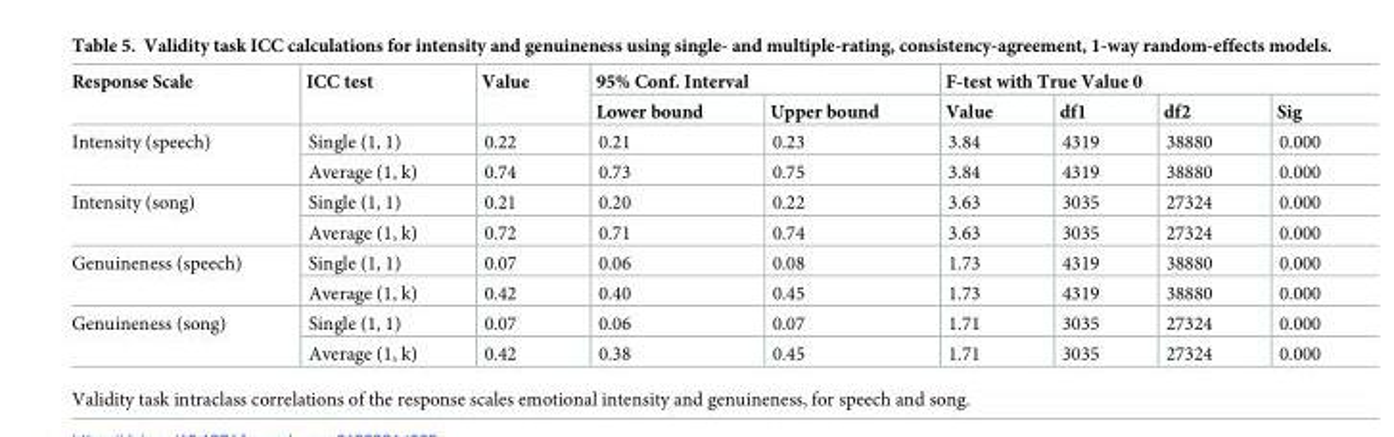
<table><thead><tr><td rowspan="2">Response Scale</td><td rowspan="2">ICC test</td><td rowspan="2">Value</td><td colspan="2">95% Conf. Interval</td><td colspan="4">F-test with True Value 0</td></tr><tr><td>Lower bound</td><td>Upper bound</td><td>Value</td><td>df1</td><td>df2</td><td>Sig</td></tr></thead><tbody><tr><td rowspan="2">Intensity (speech)</td><td>Single (1, 1)</td><td>0.22</td><td>0.21</td><td>0.23</td><td>3.84</td><td>4319</td><td>38880</td><td>0.000</td></tr><tr><td>Average (1, k)</td><td>0.74</td><td>0.73</td><td>0.75</td><td>3.84</td><td>4319</td><td>38880</td><td>0.000</td></tr><tr><td rowspan="2">Intensity (song)</td><td>Single (1, 1)</td><td>0.21</td><td>0.20</td><td>0.22</td><td>3.63</td><td>3035</td><td>27324</td><td>0.000</td></tr><tr><td>Average (1, k)</td><td>0.72</td><td>0.71</td><td>0.74</td><td>3.63</td><td>3035</td><td>27324</td><td>0.000</td></tr><tr><td rowspan="2">Genuineness (speech)</td><td>Single (1, 1)</td><td>0.07</td><td>0.06</td><td>0.08</td><td>1.73</td><td>4319</td><td>38880</td><td>0.000</td></tr><tr><td>Average (1, k)</td><td>0.42</td><td>0.40</td><td>0.45</td><td>1.73</td><td>4319</td><td>38880</td><td>0.000</td></tr><tr><td rowspan="2">Genuineness (song)</td><td>Single (1, 1)</td><td>0.07</td><td>0.06</td><td>0.07</td><td>1.71</td><td>3035</td><td>27324</td><td>0.000</td></tr><tr><td>Average (1, k)</td><td>0.42</td><td>0.38</td><td>0.45</td><td>1.71</td><td>3035</td><td>27324</td><td>0.000</td></tr></tbody></table>